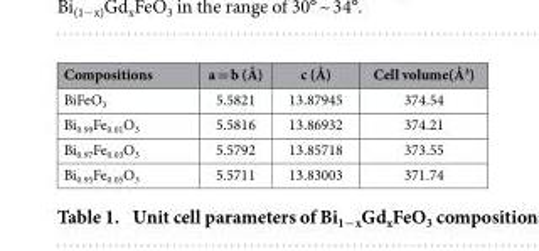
<table><thead><tr><td>Compositions</td><td>a = b (Å)</td><td>c (Å)</td><td>Cell volume(Å<sup>3</sup>)</td></tr></thead><tbody><tr><td>BiFeO<sub>3</sub></td><td>5.5821</td><td>13.87945</td><td>374.54</td></tr><tr><td>Bi<sub>0.99</sub>Fe<sub>0.01</sub>O<sub>3</sub></td><td>5.5816</td><td>13.86932</td><td>374.21</td></tr><tr><td>Bi<sub>0.97</sub>Fe<sub>0.03</sub>O<sub>3</sub></td><td>5.5792</td><td>13.85718</td><td>373.55</td></tr><tr><td>Bi<sub>0.95</sub>Fe<sub>0.05</sub>O<sub>3</sub></td><td>5.5711</td><td>13.83003</td><td>371.74</td></tr></tbody></table>